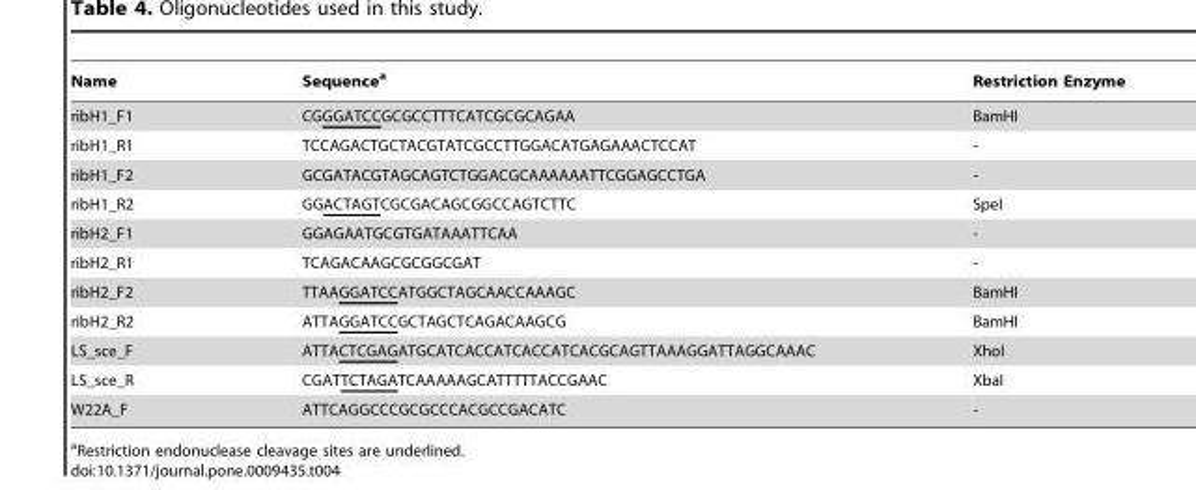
<table><thead><tr><td>Name</td><td>Sequence<sup>a</sup></td><td>Restriction Enzyme</td></tr></thead><tbody><tr><td>ribH1_F1</td><td>CGGGATCCGCGCCTTTCATCGCGCAGAA</td><td>BamHI</td></tr><tr><td>ribH1_R1</td><td>TCCAGACTGCTACGTATCGCCTTGGACATGAGAAACTCCAT</td><td>-</td></tr><tr><td>ribH1_F2</td><td>GCGATACGTAGCAGTCTGGACGCAAAAAATTCGGAGCCTGA</td><td>-</td></tr><tr><td>ribH1_R2</td><td>GGACTAGTCGCGACAGCGGCCAGTCTTC</td><td>SpeI</td></tr><tr><td>ribH2_F1</td><td>GGAGAATGCGTGATAAATTCAA</td><td>-</td></tr><tr><td>ribH2_R1</td><td>TCAGACAAGCGCGGCGAT</td><td>-</td></tr><tr><td>ribH2_F2</td><td>TTAAGGATCCATGGCTAGCAACCAAAGC</td><td>BamHI</td></tr><tr><td>ribH2_R2</td><td>ATTAGGATCCGCTAGCTCAGACAAGCG</td><td>BamHI</td></tr><tr><td>LS_sce_F</td><td>ATTACTCGAGATGCATCACCATCACCATCACGCAGTTAAAGGATTAGGCAAAC</td><td>XhoI</td></tr><tr><td>LS_sce_R</td><td>CGATTCTAGATCAAAAAGCATTTTTACCGAAC</td><td>XbaI</td></tr><tr><td>W22A_F</td><td>ATTCAGGCCCGCGCCCACGCCGACATC</td><td>-</td></tr></tbody></table>